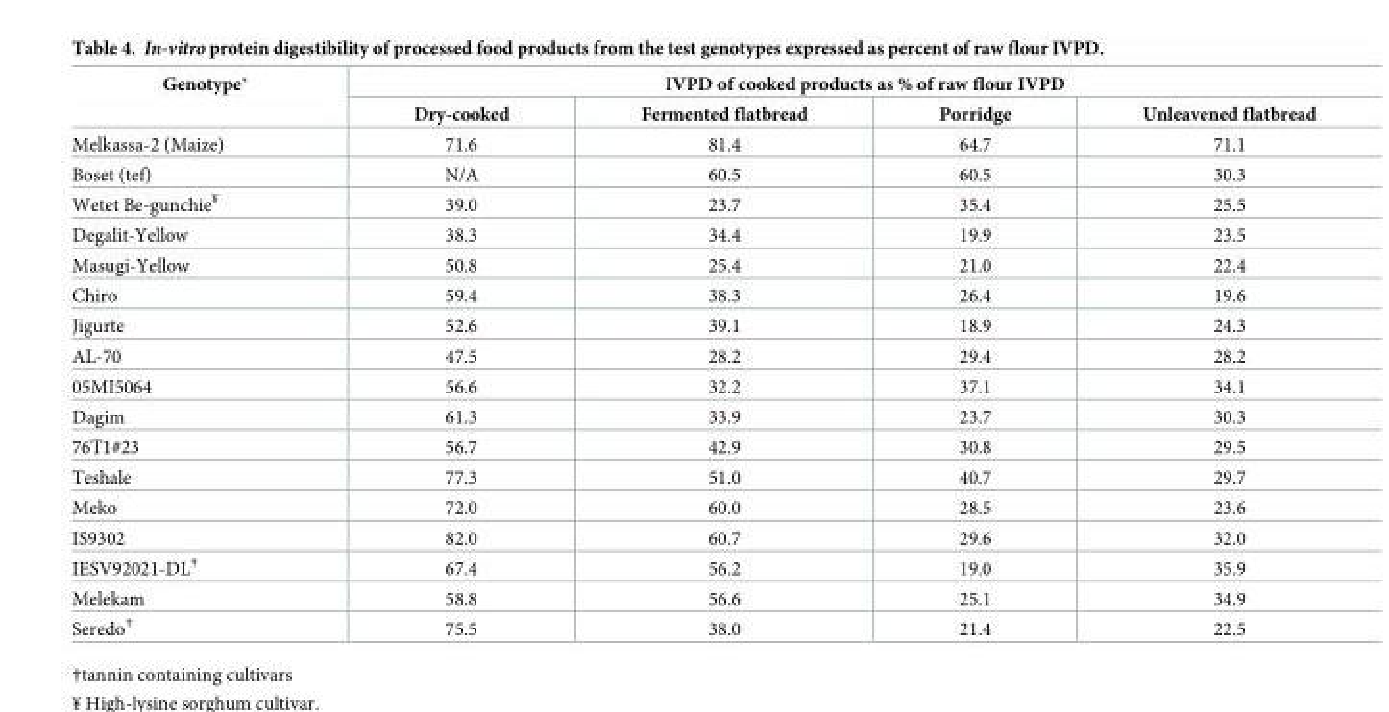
<table><thead><tr><td rowspan="2">Genotype*</td><td colspan="4">IVPD of cooked products as % of raw flour IVPD</td></tr><tr><td>Dry-cooked</td><td>Fermented flatbread</td><td>Porridge</td><td>Unleavened flatbread</td></tr></thead><tbody><tr><td>Melkassa-2 (Maize)</td><td>71.6</td><td>81.4</td><td>64.7</td><td>71.1</td></tr><tr><td>Boset (tef)</td><td>N/A</td><td>60.5</td><td>60.5</td><td>30.3</td></tr><tr><td>Wetet Be-gunchie<sup>¥</sup></td><td>39.0</td><td>23.7</td><td>35.4</td><td>25.5</td></tr><tr><td>Degalit-Yellow</td><td>38.3</td><td>34.4</td><td>19.9</td><td>23.5</td></tr><tr><td>Masugi-Yellow</td><td>50.8</td><td>25.4</td><td>21.0</td><td>22.4</td></tr><tr><td>Chiro</td><td>59.4</td><td>38.3</td><td>26.4</td><td>19.6</td></tr><tr><td>Jigurte</td><td>52.6</td><td>39.1</td><td>18.9</td><td>24.3</td></tr><tr><td>AL-70</td><td>47.5</td><td>28.2</td><td>29.4</td><td>28.2</td></tr><tr><td>05MI5064</td><td>56.6</td><td>32.2</td><td>37.1</td><td>34.1</td></tr><tr><td>Dagim</td><td>61.3</td><td>33.9</td><td>23.7</td><td>30.3</td></tr><tr><td>76T1#23</td><td>56.7</td><td>42.9</td><td>30.8</td><td>29.5</td></tr><tr><td>Teshale</td><td>77.3</td><td>51.0</td><td>40.7</td><td>29.7</td></tr><tr><td>Meko</td><td>72.0</td><td>60.0</td><td>28.5</td><td>23.6</td></tr><tr><td>IS9302</td><td>82.0</td><td>60.7</td><td>29.6</td><td>32.0</td></tr><tr><td>IESV92021-DL<sup>†</sup></td><td>67.4</td><td>56.2</td><td>19.0</td><td>35.9</td></tr><tr><td>Melekam</td><td>58.8</td><td>56.6</td><td>25.1</td><td>34.9</td></tr><tr><td>Seredo<sup>†</sup></td><td>75.5</td><td>38.0</td><td>21.4</td><td>22.5</td></tr></tbody></table>